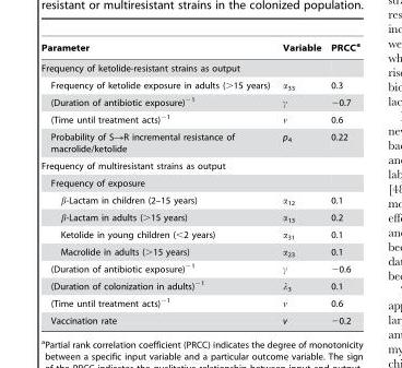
<table><thead><tr><td>Parameter</td><td>Variable</td><td>PRCC<sup>a</sup></td></tr></thead><tbody><tr><td colspan="3">Frequency of ketolide-resistant strains as output</td></tr><tr><td>Frequency of ketolide exposure in adults (&gt;15 years)</td><td>α<sub>33</sub></td><td>0.3</td></tr><tr><td>(Duration of antibiotic exposure)<sup>−1</sup></td><td>γ</td><td>−0.7</td></tr><tr><td>(Time until treatment acts)<sup>−1</sup></td><td>ν</td><td>0.6</td></tr><tr><td>Probability of S→R incremental resistance of macrolide/ketolide</td><td>p<sub>4</sub></td><td>0.22</td></tr><tr><td colspan="3">Frequency of multiresistant strains as output</td></tr><tr><td colspan="3">Frequency of exposure</td></tr><tr><td>β-Lactam in children (2–15 years)</td><td>α<sub>12</sub></td><td>0.1</td></tr><tr><td>β-Lactam in adults (&gt;15 years)</td><td>α<sub>13</sub></td><td>0.2</td></tr><tr><td>Ketolide in young children (&lt;2 years)</td><td>α<sub>31</sub></td><td>0.1</td></tr><tr><td>Macrolide in adults (&gt;15 years)</td><td>α<sub>23</sub></td><td>0.1</td></tr><tr><td>(Duration of antibiotic exposure)<sup>−1</sup></td><td>γ</td><td>−0.6</td></tr><tr><td>(Duration of colonization in adults)<sup>−1</sup></td><td>λ<sub>3</sub></td><td>0.1</td></tr><tr><td>(Time until treatment acts)<sup>−1</sup></td><td>ν</td><td>0.6</td></tr><tr><td>Vaccination rate</td><td>v</td><td>−0.2</td></tr></tbody></table>